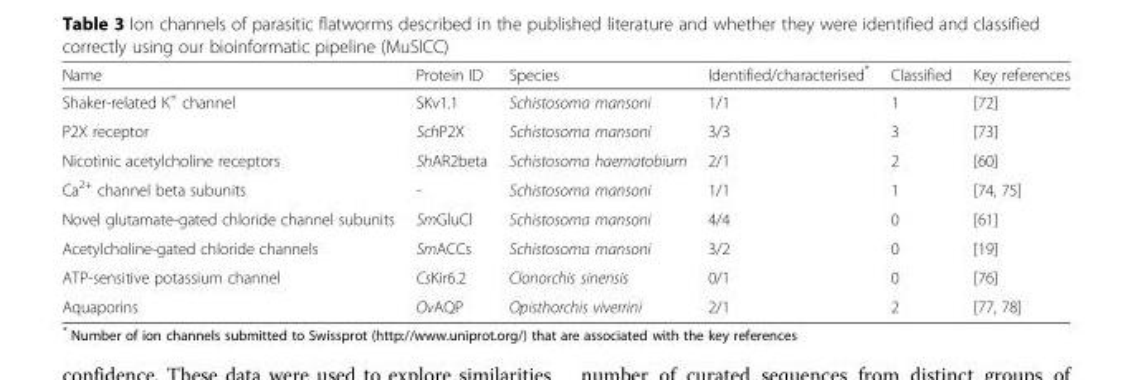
<table><thead><tr><td>Name</td><td>Protein ID</td><td>Species</td><td>Identified/characterised*</td><td>Classified</td><td>Key references</td></tr></thead><tbody><tr><td>Shaker-related K<sup>+</sup> channel</td><td>SKv1.1</td><td>Schistosoma mansoni</td><td>1/1</td><td>1</td><td>[72]</td></tr><tr><td>P2X receptor</td><td>SchP2X</td><td>Schistosoma mansoni</td><td>3/3</td><td>3</td><td>[73]</td></tr><tr><td>Nicotinic acetylcholine receptors</td><td>ShAR2beta</td><td>Schistosoma haematobium</td><td>2/1</td><td>2</td><td>[60]</td></tr><tr><td>Ca<sup>2+</sup> channel beta subunits</td><td>-</td><td>Schistosoma mansoni</td><td>1/1</td><td>1</td><td>[74, 75]</td></tr><tr><td>Novel glutamate-gated chloride channel subunits</td><td>SmGluCl</td><td>Schistosoma mansoni</td><td>4/4</td><td>0</td><td>[61]</td></tr><tr><td>Acetylcholine-gated chloride channels</td><td>SmACCs</td><td>Schistosoma mansoni</td><td>3/2</td><td>0</td><td>[19]</td></tr><tr><td>ATP-sensitive potassium channel</td><td>CsKir6.2</td><td>Clonorchis sinensis</td><td>0/1</td><td>0</td><td>[76]</td></tr><tr><td>Aquaporins</td><td>OvAQP</td><td>Opisthorchis viverrini</td><td>2/1</td><td>2</td><td>[77, 78]</td></tr></tbody></table>